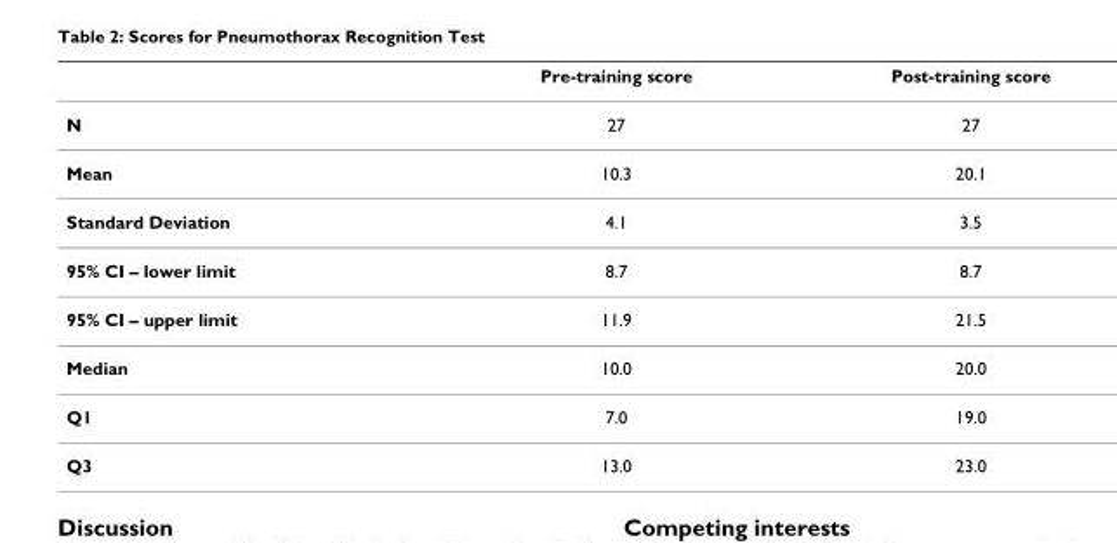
<table><thead><tr><td></td><td>Pre-training score</td><td>Post-training score</td></tr></thead><tbody><tr><td>N</td><td>27</td><td>27</td></tr><tr><td>Mean</td><td>10.3</td><td>20.1</td></tr><tr><td>Standard Deviation</td><td>4.1</td><td>3.5</td></tr><tr><td>95% CI – lower limit</td><td>8.7</td><td>8.7</td></tr><tr><td>95% CI – upper limit</td><td>11.9</td><td>21.5</td></tr><tr><td>Median</td><td>10.0</td><td>20.0</td></tr><tr><td>Q1</td><td>7.0</td><td>19.0</td></tr><tr><td>Q3</td><td>13.0</td><td>23.0</td></tr></tbody></table>